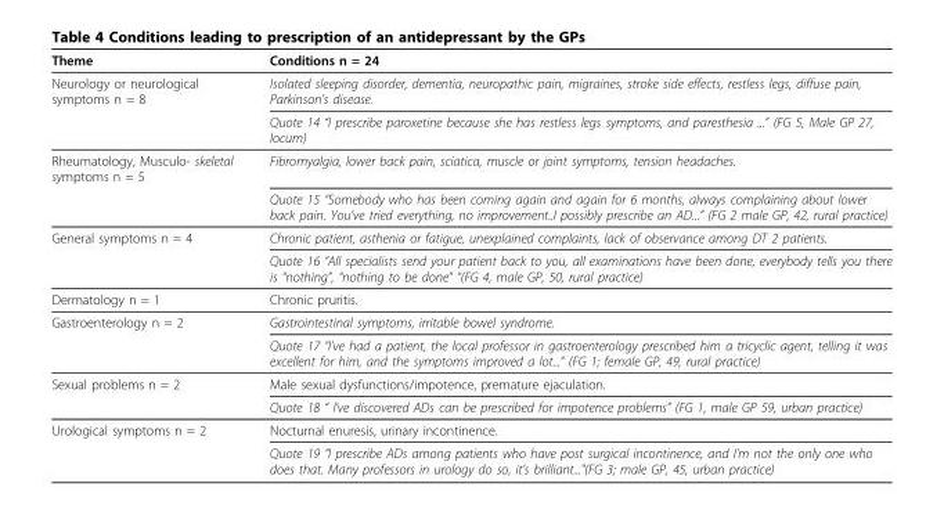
<table><thead><tr><td>Theme</td><td>Conditions n = 24</td></tr></thead><tbody><tr><td rowspan="2">Neurology or neurological symptoms n = 8</td><td>Isolated sleeping disorder, dementia, neuropathic pain, migraines, stroke side effects, restless legs, diffuse pain, Parkinson’s disease.</td></tr><tr><td>Quote 14 “I prescribe paroxetine because she has restless legs symptoms, and paresthesia ...” (FG 5, Male GP 27, locum)</td></tr><tr><td rowspan="2">Rheumatology, Musculo- skeletal symptoms n = 5</td><td>Fibromyalgia, lower back pain, sciatica, muscle or joint symptoms, tension headaches.</td></tr><tr><td>Quote 15 “Somebody who has been coming again and again for 6 months, always complaining about lower back pain. You’ve tried everything, no improvement..I possibly prescribe an AD...” (FG 2 male GP, 42, rural practice)</td></tr><tr><td rowspan="2">General symptoms n = 4</td><td>Chronic patient, asthenia or fatigue, unexplained complaints, lack of observance among DT 2 patients.</td></tr><tr><td>Quote 16 “All specialists send your patient back to you, all examinations have been done, everybody tells you there is “nothing”, “nothing to be done” “(FG 4, male GP, 50, rural practice)</td></tr><tr><td>Dermatology n = 1</td><td>Chronic pruritis.</td></tr><tr><td rowspan="2">Gastroenterology n = 2</td><td>Gastrointestinal symptoms, irritable bowel syndrome.</td></tr><tr><td>Quote 17 “I’ve had a patient, the local professor in gastroenterology prescribed him a tricyclic agent, telling it was excellent for him, and the symptoms improved a lot...” (FG 1; female GP, 49, rural practice)</td></tr><tr><td rowspan="2">Sexual problems n = 2</td><td>Male sexual dysfunctions/impotence, premature ejaculation.</td></tr><tr><td>Quote 18 “ I’ve discovered ADs can be prescribed for impotence problems” (FG 1, male GP 59, urban practice)</td></tr><tr><td rowspan="2">Urological symptoms n = 2</td><td>Nocturnal enuresis, urinary incontinence.</td></tr><tr><td>Quote 19 “I prescribe ADs among patients who have post surgical incontinence, and I’m not the only one who does that. Many professors in urology do so, it’s brilliant...&quot;(FG 3; male GP, 45, urban practice)</td></tr></tbody></table>